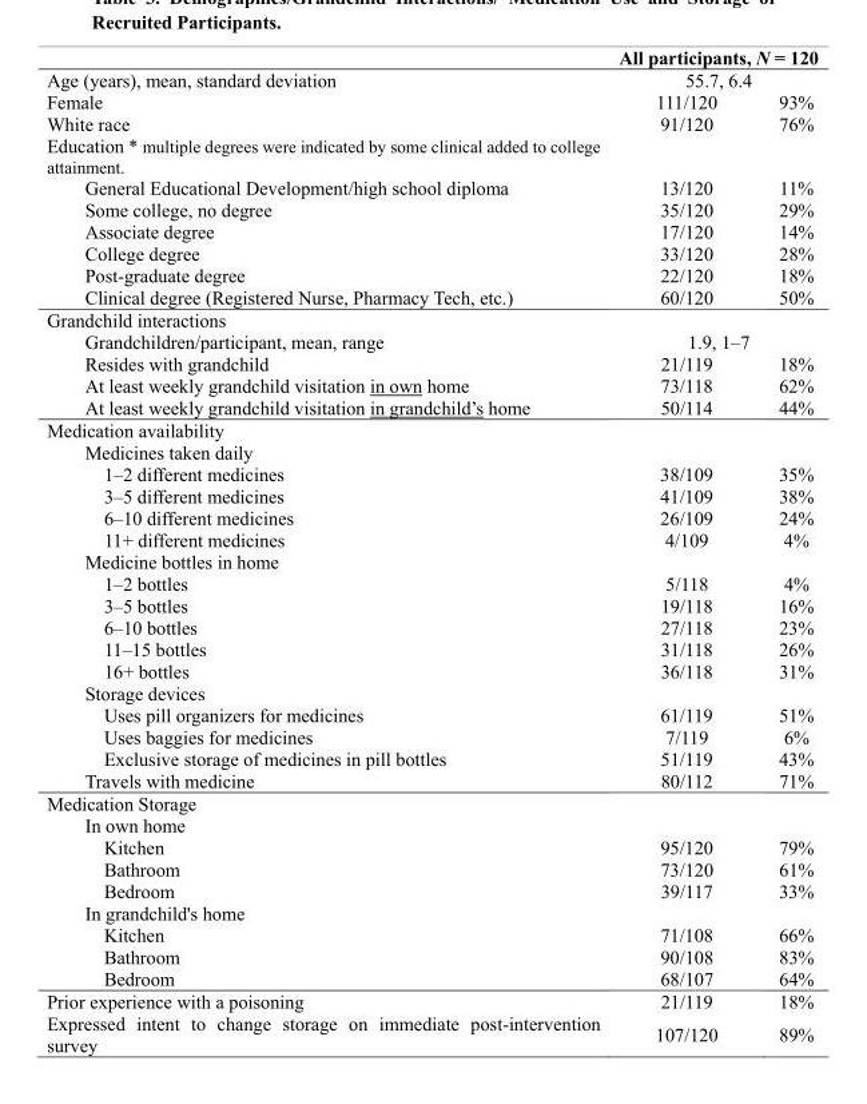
<table><thead><tr><td colspan="3">All participants, N = 120</td></tr><tr><td rowspan="2">Age (years), mean, standard deviation Female</td><td colspan="2">55.7, 6.4</td></tr><tr><td>111/120</td><td>93%</td></tr></thead><tbody><tr><td>White race</td><td>91/120</td><td>76%</td></tr><tr><td colspan="3">Education * multiple degrees were indicated by some clinical added to college attainment.</td></tr><tr><td>General Educational Development/high school diploma</td><td>13/120</td><td>11%</td></tr><tr><td>Some college, no degree</td><td>35/120</td><td>29%</td></tr><tr><td>Associate degree</td><td>17/120</td><td>14%</td></tr><tr><td>College degree</td><td>33/120</td><td>28%</td></tr><tr><td>Post-graduate degree</td><td>22/120</td><td>18%</td></tr><tr><td>Clinical degree (Registered Nurse, Pharmacy Tech, etc.)</td><td>60/120</td><td>50%</td></tr><tr><td colspan="3">Grandchild interactions</td></tr><tr><td>Grandchildren/participant, mean, range</td><td colspan="2">1.9, 1–7</td></tr><tr><td>Resides with grandchild</td><td>21/119</td><td>18%</td></tr><tr><td>At least weekly grandchild visitation in own home</td><td>73/118</td><td>62%</td></tr><tr><td>At least weekly grandchild visitation in grandchild’s home</td><td>50/114</td><td>44%</td></tr><tr><td colspan="3">Medication availability</td></tr><tr><td colspan="3">Medicines taken daily</td></tr><tr><td>1–2 different medicines</td><td>38/109</td><td>35%</td></tr><tr><td>3–5 different medicines</td><td>41/109</td><td>38%</td></tr><tr><td>6–10 different medicines</td><td>26/109</td><td>24%</td></tr><tr><td>11+ different medicines</td><td>4/109</td><td>4%</td></tr><tr><td colspan="3">Medicine bottles in home</td></tr><tr><td>1–2 bottles</td><td>5/118</td><td>4%</td></tr><tr><td>3–5 bottles</td><td>19/118</td><td>16%</td></tr><tr><td>6–10 bottles</td><td>27/118</td><td>23%</td></tr><tr><td>11–15 bottles</td><td>31/118</td><td>26%</td></tr><tr><td>16+ bottles</td><td>36/118</td><td>31%</td></tr><tr><td colspan="3">Storage devices</td></tr><tr><td>Uses pill organizers for medicines</td><td>61/119</td><td>51%</td></tr><tr><td>Uses baggies for medicines</td><td>7/119</td><td>6%</td></tr><tr><td>Exclusive storage of medicines in pill bottles</td><td>51/119</td><td>43%</td></tr><tr><td>Travels with medicine</td><td>80/112</td><td>71%</td></tr><tr><td colspan="3">Medication Storage</td></tr><tr><td colspan="3">In own home</td></tr><tr><td>Kitchen</td><td>95/120</td><td>79%</td></tr><tr><td>Bathroom</td><td>73/120</td><td>61%</td></tr><tr><td>Bedroom</td><td>39/117</td><td>33%</td></tr><tr><td colspan="3">In grandchild&#x27;s home</td></tr><tr><td>Kitchen</td><td>71/108</td><td>66%</td></tr><tr><td>Bathroom</td><td>90/108</td><td>83%</td></tr><tr><td>Bedroom</td><td>68/107</td><td>64%</td></tr><tr><td>Prior experience with a poisoning</td><td>21/119</td><td>18%</td></tr><tr><td>Expressed intent to change storage on immediate post-intervention survey</td><td>107/120</td><td>89%</td></tr></tbody></table>